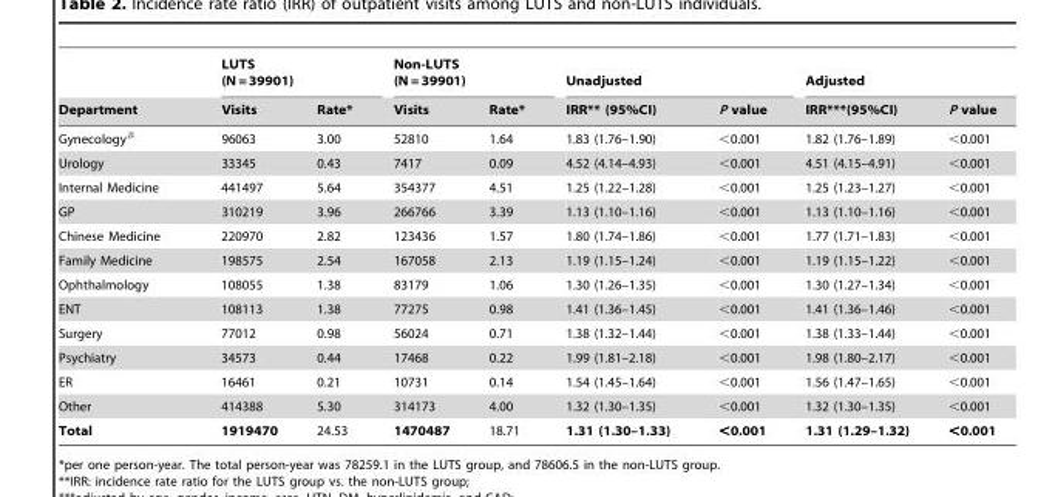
<table><thead><tr><td rowspan="2">Department</td><td colspan="2">LUTS (N = 39901)</td><td colspan="2">Non-LUTS (N = 39901)</td><td colspan="2">Unadjusted</td><td colspan="2">Adjusted</td></tr><tr><td>Visits</td><td>Rate*</td><td>Visits</td><td>Rate*</td><td>IRR** (95%CI)</td><td>P value</td><td>IRR***(95%CI)</td><td>P value</td></tr></thead><tbody><tr><td>Gynecology#</td><td>96063</td><td>3.00</td><td>52810</td><td>1.64</td><td>1.83 (1.76–1.90)</td><td>&lt;0.001</td><td>1.82 (1.76–1.89)</td><td>&lt;0.001</td></tr><tr><td>Urology</td><td>33345</td><td>0.43</td><td>7417</td><td>0.09</td><td>4.52 (4.14–4.93)</td><td>&lt;0.001</td><td>4.51 (4.15–4.91)</td><td>&lt;0.001</td></tr><tr><td>Internal Medicine</td><td>441497</td><td>5.64</td><td>354377</td><td>4.51</td><td>1.25 (1.22–1.28)</td><td>&lt;0.001</td><td>1.25 (1.23–1.27)</td><td>&lt;0.001</td></tr><tr><td>GP</td><td>310219</td><td>3.96</td><td>266766</td><td>3.39</td><td>1.13 (1.10–1.16)</td><td>&lt;0.001</td><td>1.13 (1.10–1.16)</td><td>&lt;0.001</td></tr><tr><td>Chinese Medicine</td><td>220970</td><td>2.82</td><td>123436</td><td>1.57</td><td>1.80 (1.74–1.86)</td><td>&lt;0.001</td><td>1.77 (1.71–1.83)</td><td>&lt;0.001</td></tr><tr><td>Family Medicine</td><td>198575</td><td>2.54</td><td>167058</td><td>2.13</td><td>1.19 (1.15–1.24)</td><td>&lt;0.001</td><td>1.19 (1.15–1.22)</td><td>&lt;0.001</td></tr><tr><td>Ophthalmology</td><td>108055</td><td>1.38</td><td>83179</td><td>1.06</td><td>1.30 (1.26–1.35)</td><td>&lt;0.001</td><td>1.30 (1.27–1.34)</td><td>&lt;0.001</td></tr><tr><td>ENT</td><td>108113</td><td>1.38</td><td>77275</td><td>0.98</td><td>1.41 (1.36–1.45)</td><td>&lt;0.001</td><td>1.41 (1.36–1.46)</td><td>&lt;0.001</td></tr><tr><td>Surgery</td><td>77012</td><td>0.98</td><td>56024</td><td>0.71</td><td>1.38 (1.32–1.44)</td><td>&lt;0.001</td><td>1.38 (1.33–1.44)</td><td>&lt;0.001</td></tr><tr><td>Psychiatry</td><td>34573</td><td>0.44</td><td>17468</td><td>0.22</td><td>1.99 (1.81–2.18)</td><td>&lt;0.001</td><td>1.98 (1.80–2.17)</td><td>&lt;0.001</td></tr><tr><td>ER</td><td>16461</td><td>0.21</td><td>10731</td><td>0.14</td><td>1.54 (1.45–1.64)</td><td>&lt;0.001</td><td>1.56 (1.47–1.65)</td><td>&lt;0.001</td></tr><tr><td>Other</td><td>414388</td><td>5.30</td><td>314173</td><td>4.00</td><td>1.32 (1.30–1.35)</td><td>&lt;0.001</td><td>1.32 (1.30–1.35)</td><td>&lt;0.001</td></tr><tr><td>Total</td><td>1919470</td><td>24.53</td><td>1470487</td><td>18.71</td><td>1.31 (1.30–1.33)</td><td>&lt;0.001</td><td>1.31 (1.29–1.32)</td><td>&lt;0.001</td></tr></tbody></table>